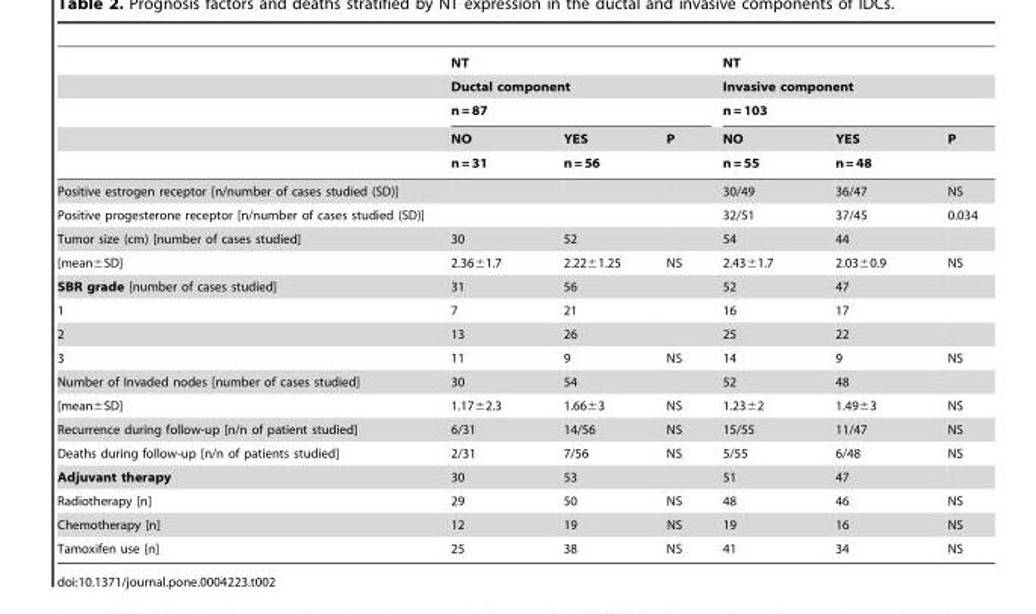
<table><thead><tr><td rowspan="5"></td><td rowspan="3" colspan="3">NT Ductal component n = 87</td><td rowspan="3" colspan="3">NT Invasive component n = 103</td></tr><tr></tr><tr></tr><tr><td rowspan="2">NO n = 31</td><td rowspan="2">YES n = 56</td><td rowspan="2">P</td><td rowspan="2">NO n = 55</td><td rowspan="2">YES n = 48</td><td rowspan="2">P</td></tr><tr></tr></thead><tbody><tr><td>Positive estrogen receptor [n/number of cases studied (SD)]</td><td></td><td></td><td></td><td>30/49</td><td>36/47</td><td>NS</td></tr><tr><td>Positive progesterone receptor [n/number of cases studied (SD)]</td><td></td><td></td><td></td><td>32/51</td><td>37/45</td><td>0.034</td></tr><tr><td>Tumor size (cm) [number of cases studied]</td><td>30</td><td>52</td><td></td><td>54</td><td>44</td><td></td></tr><tr><td>[mean±SD]</td><td>2.36±1.7</td><td>2.22±1.25</td><td>NS</td><td>2.43±1.7</td><td>2.03±0.9</td><td>NS</td></tr><tr><td>SBR grade [number of cases studied]</td><td>31</td><td>56</td><td></td><td>52</td><td>47</td><td></td></tr><tr><td>1</td><td>7</td><td>21</td><td></td><td>16</td><td>17</td><td></td></tr><tr><td>2</td><td>13</td><td>26</td><td></td><td>25</td><td>22</td><td></td></tr><tr><td>3</td><td>11</td><td>9</td><td>NS</td><td>14</td><td>9</td><td>NS</td></tr><tr><td>Number of Invaded nodes [number of cases studied]</td><td>30</td><td>54</td><td></td><td>52</td><td>48</td><td></td></tr><tr><td>[mean±SD]</td><td>1.17±2.3</td><td>1.66±3</td><td>NS</td><td>1.23±2</td><td>1.49±3</td><td>NS</td></tr><tr><td>Recurrence during follow-up [n/n of patient studied]</td><td>6/31</td><td>14/56</td><td>NS</td><td>15/55</td><td>11/47</td><td>NS</td></tr><tr><td>Deaths during follow-up [n/n of patients studied]</td><td>2/31</td><td>7/56</td><td>NS</td><td>5/55</td><td>6/48</td><td>NS</td></tr><tr><td>Adjuvant therapy</td><td>30</td><td>53</td><td></td><td>51</td><td>47</td><td></td></tr><tr><td>Radiotherapy [n]</td><td>29</td><td>50</td><td>NS</td><td>48</td><td>46</td><td>NS</td></tr><tr><td>Chemotherapy [n]</td><td>12</td><td>19</td><td>NS</td><td>19</td><td>16</td><td>NS</td></tr><tr><td>Tamoxifen use [n]</td><td>25</td><td>38</td><td>NS</td><td>41</td><td>34</td><td>NS</td></tr></tbody></table>